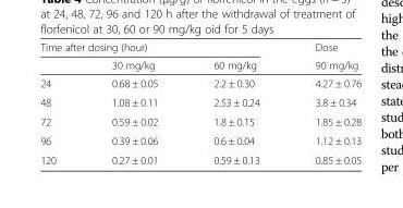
<table><thead><tr><td colspan="3">Time after dosing (hour)</td><td rowspan="2">Dose 90 mg/kg</td></tr><tr><td></td><td>30 mg/kg</td><td>60 mg/kg</td></tr></thead><tbody><tr><td>24</td><td>0.68 ± 0.05</td><td>2.2 ± 0.30</td><td>4.27 ± 0.76</td></tr><tr><td>48</td><td>1.08 ± 0.11</td><td>2.53 ± 0.24</td><td>3.8 ± 0.34</td></tr><tr><td>72</td><td>0.59 ± 0.02</td><td>1.8 ± 0.15</td><td>1.85 ± 0.28</td></tr><tr><td>96</td><td>0.39 ± 0.06</td><td>0.6 ± 0.04</td><td>1.12 ± 0.13</td></tr><tr><td>120</td><td>0.27 ± 0.01</td><td>0.59 ± 0.13</td><td>0.85 ± 0.05</td></tr></tbody></table>